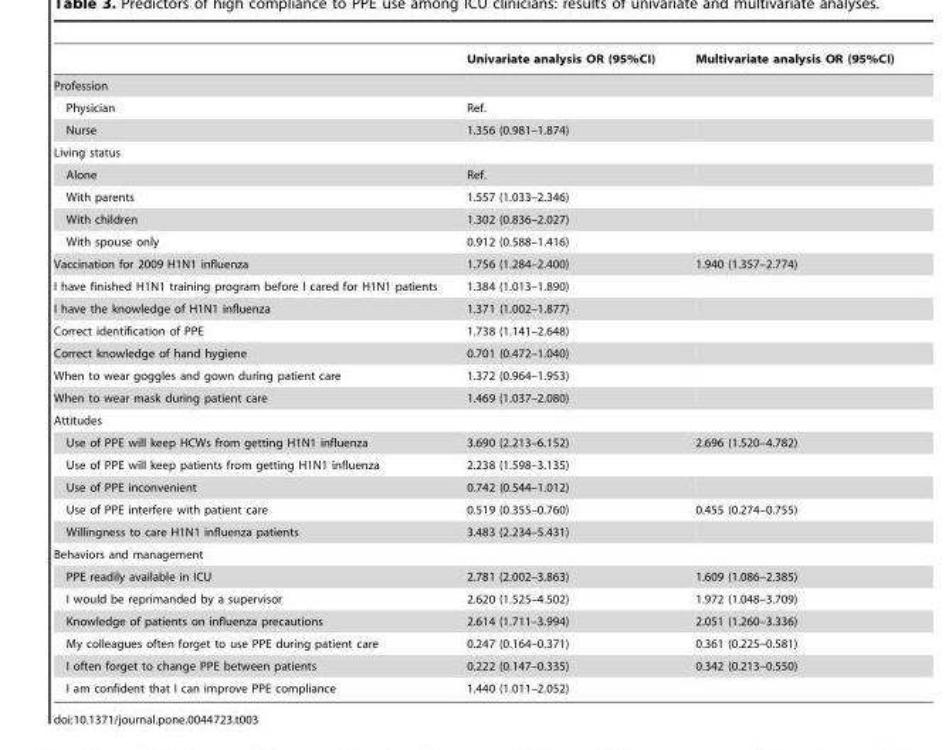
<table><thead><tr><td></td><td>Univariate analysis OR (95%CI)</td><td>Multivariate analysis OR (95%CI)</td></tr></thead><tbody><tr><td colspan="3">Profession</td></tr><tr><td>Physician</td><td>Ref.</td><td></td></tr><tr><td>Nurse</td><td>1.356 (0.981–1.874)</td><td></td></tr><tr><td colspan="3">Living status</td></tr><tr><td>Alone</td><td>Ref.</td><td></td></tr><tr><td>With parents</td><td>1.557 (1.033–2.346)</td><td></td></tr><tr><td>With children</td><td>1.302 (0.836–2.027)</td><td></td></tr><tr><td>With spouse only</td><td>0.912 (0.588–1.416)</td><td></td></tr><tr><td>Vaccination for 2009 H1N1 influenza</td><td>1.756 (1.284–2.400)</td><td>1.940 (1.357–2.774)</td></tr><tr><td>I have finished H1N1 training program before I cared for H1N1 patients</td><td>1.384 (1.013–1.890)</td><td></td></tr><tr><td>I have the knowledge of H1N1 influenza</td><td>1.371 (1.002–1.877)</td><td></td></tr><tr><td>Correct identification of PPE</td><td>1.738 (1.141–2.648)</td><td></td></tr><tr><td>Correct knowledge of hand hygiene</td><td>0.701 (0.472–1.040)</td><td></td></tr><tr><td>When to wear goggles and gown during patient care</td><td>1.372 (0.964–1.953)</td><td></td></tr><tr><td>When to wear mask during patient care</td><td>1.469 (1.037–2.080)</td><td></td></tr><tr><td colspan="3">Attitudes</td></tr><tr><td>Use of PPE will keep HCWs from getting H1N1 influenza</td><td>3.690 (2.213–6.152)</td><td>2.696 (1.520–4.782)</td></tr><tr><td>Use of PPE will keep patients from getting H1N1 influenza</td><td>2.238 (1.598–3.135)</td><td></td></tr><tr><td>Use of PPE inconvenient</td><td>0.742 (0.544–1.012)</td><td></td></tr><tr><td>Use of PPE interfere with patient care</td><td>0.519 (0.355–0.760)</td><td>0.455 (0.274–0.755)</td></tr><tr><td>Willingness to care H1N1 influenza patients</td><td>3.483 (2.234–5.431)</td><td></td></tr><tr><td colspan="3">Behaviors and management</td></tr><tr><td>PPE readily available in ICU</td><td>2.781 (2.002–3.863)</td><td>1.609 (1.086–2.385)</td></tr><tr><td>I would be reprimanded by a supervisor</td><td>2.620 (1.525–4.502)</td><td>1.972 (1.048–3.709)</td></tr><tr><td>Knowledge of patients on influenza precautions</td><td>2.614 (1.711–3.994)</td><td>2.051 (1.260–3.336)</td></tr><tr><td>My colleagues often forget to use PPE during patient care</td><td>0.247 (0.164–0.371)</td><td>0.361 (0.225–0.581)</td></tr><tr><td>I often forget to change PPE between patients</td><td>0.222 (0.147–0.335)</td><td>0.342 (0.213–0.550)</td></tr><tr><td>I am confident that I can improve PPE compliance</td><td>1.440 (1.011–2.052)</td><td></td></tr></tbody></table>